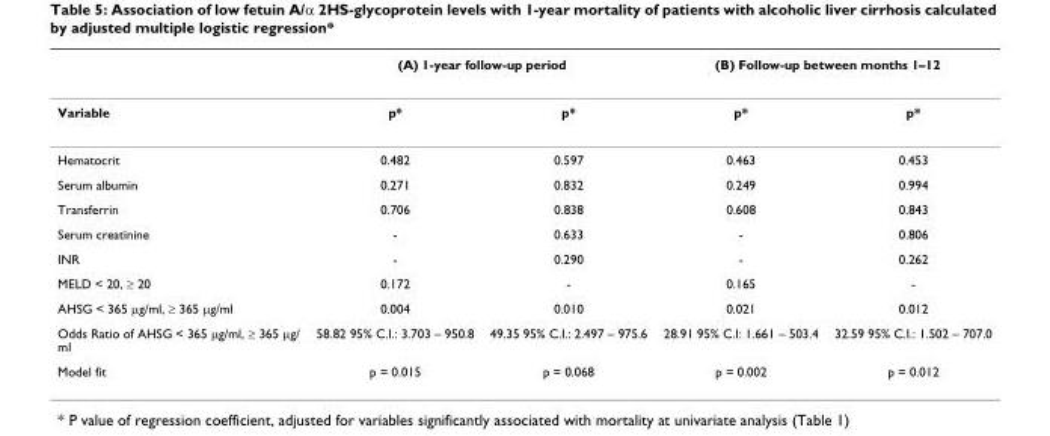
<table><thead><tr><td rowspan="2">Variable</td><td colspan="2">(A) 1-year follow-up period</td><td colspan="2">(B) Follow-up between months 1–12</td></tr><tr><td>p*</td><td>p*</td><td>p*</td><td>p*</td></tr></thead><tbody><tr><td>Hematocrit</td><td>0.482</td><td>0.597</td><td>0.463</td><td>0.453</td></tr><tr><td>Serum albumin</td><td>0.271</td><td>0.832</td><td>0.249</td><td>0.994</td></tr><tr><td>Transferrin</td><td>0.706</td><td>0.838</td><td>0.608</td><td>0.843</td></tr><tr><td>Serum creatinine</td><td>-</td><td>0.633</td><td>-</td><td>0.806</td></tr><tr><td>INR</td><td>-</td><td>0.290</td><td>-</td><td>0.262</td></tr><tr><td>MELD &lt; 20, ≥ 20</td><td>0.172</td><td>-</td><td>0.165</td><td>-</td></tr><tr><td>AHSG &lt; 365 μg/ml, ≥ 365 μg/ml</td><td>0.004</td><td>0.010</td><td>0.021</td><td>0.012</td></tr><tr><td>Odds Ratio of AHSG &lt; 365 μg/ml, ≥ 365 μg/ ml</td><td>58.82 95% C.I.: 3.703 – 950.8</td><td>49.35 95% C.I.: 2.497 – 975.6</td><td>28.91 95% C.I: 1.661 – 503.4</td><td>32.59 95% C.I.: 1.502 – 707.0</td></tr><tr><td>Model fit</td><td>p = 0.015</td><td>p = 0.068</td><td>p = 0.002</td><td>p = 0.012</td></tr></tbody></table>